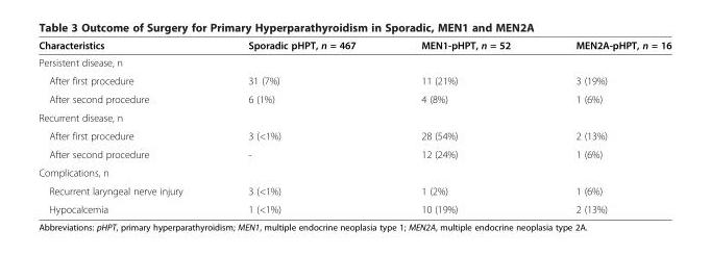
<table><thead><tr><td>Characteristics</td><td>Sporadic pHPT, n = 467</td><td>MEN1-pHPT, n = 52</td><td>MEN2A-pHPT, n = 16</td></tr></thead><tbody><tr><td colspan="4">Persistent disease, n</td></tr><tr><td>After first procedure</td><td>31 (7%)</td><td>11 (21%)</td><td>3 (19%)</td></tr><tr><td>After second procedure</td><td>6 (1%)</td><td>4 (8%)</td><td>1 (6%)</td></tr><tr><td colspan="4">Recurrent disease, n</td></tr><tr><td>After first procedure</td><td>3 (&lt;1%)</td><td>28 (54%)</td><td>2 (13%)</td></tr><tr><td>After second procedure</td><td>-</td><td>12 (24%)</td><td>1 (6%)</td></tr><tr><td colspan="4">Complications, n</td></tr><tr><td>Recurrent laryngeal nerve injury</td><td>3 (&lt;1%)</td><td>1 (2%)</td><td>1 (6%)</td></tr><tr><td>Hypocalcemia</td><td>1 (&lt;1%)</td><td>10 (19%)</td><td>2 (13%)</td></tr></tbody></table>